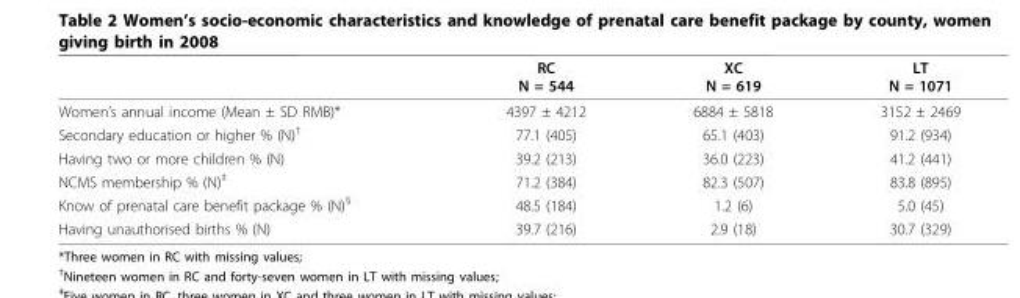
<table><thead><tr><td></td><td>RC N = 544</td><td>XC N = 619</td><td>LT N = 1071</td></tr></thead><tbody><tr><td>Women’s annual income (Mean ± SD RMB)*</td><td>4397 ± 4212</td><td>6884 ± 5818</td><td>3152 ± 2469</td></tr><tr><td>Secondary education or higher % (N)†</td><td>77.1 (405)</td><td>65.1 (403)</td><td>91.2 (934)</td></tr><tr><td>Having two or more children % (N)</td><td>39.2 (213)</td><td>36.0 (223)</td><td>41.2 (441)</td></tr><tr><td>NCMS membership % (N)‡</td><td>71.2 (384)</td><td>82.3 (507)</td><td>83.8 (895)</td></tr><tr><td>Know of prenatal care benefit package % (N)§</td><td>48.5 (184)</td><td>1.2 (6)</td><td>5.0 (45)</td></tr><tr><td>Having unauthorised births % (N)</td><td>39.7 (216)</td><td>2.9 (18)</td><td>30.7 (329)</td></tr></tbody></table>